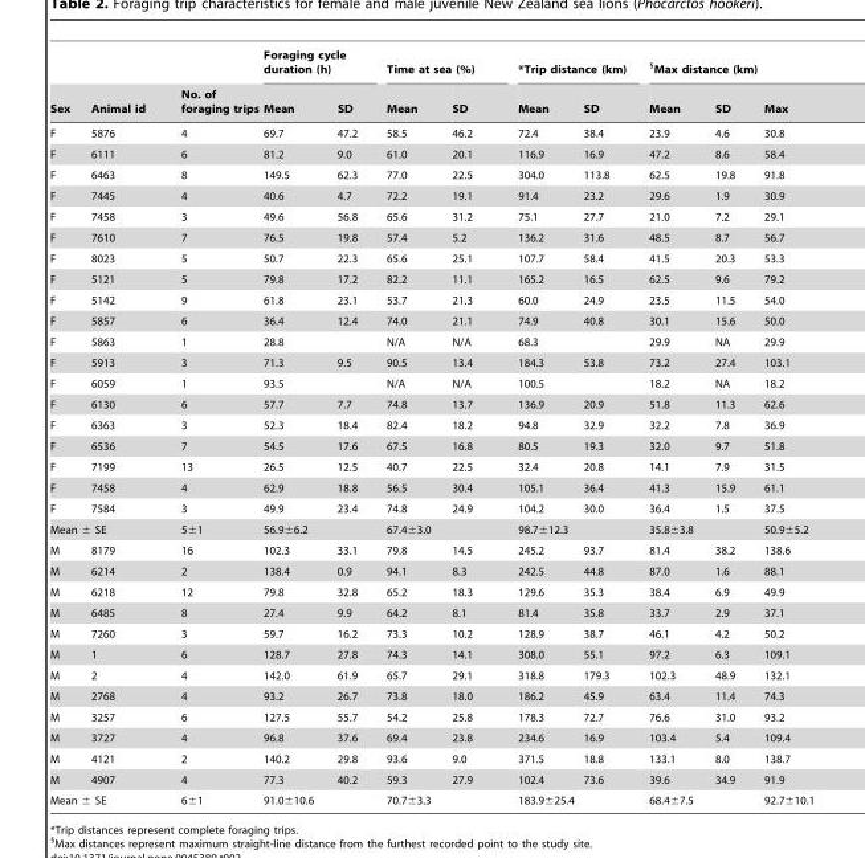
<table><thead><tr><td rowspan="2">Sex</td><td rowspan="2">Animal id</td><td rowspan="2">No. of foraging trips</td><td colspan="2">Foraging cycle duration (h)</td><td colspan="2">Time at sea (%)</td><td colspan="2">*Trip distance (km)</td><td colspan="3">§Max distance (km)</td></tr><tr><td>Mean</td><td>SD</td><td>Mean</td><td>SD</td><td>Mean</td><td>SD</td><td>Mean</td><td>SD</td><td>Max</td></tr></thead><tbody><tr><td>F</td><td>5876</td><td>4</td><td>69.7</td><td>47.2</td><td>58.5</td><td>46.2</td><td>72.4</td><td>38.4</td><td>23.9</td><td>4.6</td><td>30.8</td></tr><tr><td>F</td><td>6111</td><td>6</td><td>81.2</td><td>9.0</td><td>61.0</td><td>20.1</td><td>116.9</td><td>16.9</td><td>47.2</td><td>8.6</td><td>58.4</td></tr><tr><td>F</td><td>6463</td><td>8</td><td>149.5</td><td>62.3</td><td>77.0</td><td>22.5</td><td>304.0</td><td>113.8</td><td>62.5</td><td>19.8</td><td>91.8</td></tr><tr><td>F</td><td>7445</td><td>4</td><td>40.6</td><td>4.7</td><td>72.2</td><td>19.1</td><td>91.4</td><td>23.2</td><td>29.6</td><td>1.9</td><td>30.9</td></tr><tr><td>F</td><td>7458</td><td>3</td><td>49.6</td><td>56.8</td><td>65.6</td><td>31.2</td><td>75.1</td><td>27.7</td><td>21.0</td><td>7.2</td><td>29.1</td></tr><tr><td>F</td><td>7610</td><td>7</td><td>76.5</td><td>19.8</td><td>57.4</td><td>5.2</td><td>136.2</td><td>31.6</td><td>48.5</td><td>8.7</td><td>56.7</td></tr><tr><td>F</td><td>8023</td><td>5</td><td>50.7</td><td>22.3</td><td>65.6</td><td>25.1</td><td>107.7</td><td>58.4</td><td>41.5</td><td>20.3</td><td>53.3</td></tr><tr><td>F</td><td>5121</td><td>5</td><td>79.8</td><td>17.2</td><td>82.2</td><td>11.1</td><td>165.2</td><td>16.5</td><td>62.5</td><td>9.6</td><td>79.2</td></tr><tr><td>F</td><td>5142</td><td>9</td><td>61.8</td><td>23.1</td><td>53.7</td><td>21.3</td><td>60.0</td><td>24.9</td><td>23.5</td><td>11.5</td><td>54.0</td></tr><tr><td>F</td><td>5857</td><td>6</td><td>36.4</td><td>12.4</td><td>74.0</td><td>21.1</td><td>74.9</td><td>40.8</td><td>30.1</td><td>15.6</td><td>50.0</td></tr><tr><td>F</td><td>5863</td><td>1</td><td>28.8</td><td></td><td>N/A</td><td>N/A</td><td>68.3</td><td></td><td>29.9</td><td>NA</td><td>29.9</td></tr><tr><td>F</td><td>5913</td><td>3</td><td>71.3</td><td>9.5</td><td>90.5</td><td>13.4</td><td>184.3</td><td>53.8</td><td>73.2</td><td>27.4</td><td>103.1</td></tr><tr><td>F</td><td>6059</td><td>1</td><td>93.5</td><td></td><td>N/A</td><td>N/A</td><td>100.5</td><td></td><td>18.2</td><td>NA</td><td>18.2</td></tr><tr><td>F</td><td>6130</td><td>6</td><td>57.7</td><td>7.7</td><td>74.8</td><td>13.7</td><td>136.9</td><td>20.9</td><td>51.8</td><td>11.3</td><td>62.6</td></tr><tr><td>F</td><td>6363</td><td>3</td><td>52.3</td><td>18.4</td><td>82.4</td><td>18.2</td><td>94.8</td><td>32.9</td><td>32.2</td><td>7.8</td><td>36.9</td></tr><tr><td>F</td><td>6536</td><td>7</td><td>54.5</td><td>17.6</td><td>67.5</td><td>16.8</td><td>80.5</td><td>19.3</td><td>32.0</td><td>9.7</td><td>51.8</td></tr><tr><td>F</td><td>7199</td><td>13</td><td>26.5</td><td>12.5</td><td>40.7</td><td>22.5</td><td>32.4</td><td>20.8</td><td>14.1</td><td>7.9</td><td>31.5</td></tr><tr><td>F</td><td>7458</td><td>4</td><td>62.9</td><td>18.8</td><td>56.5</td><td>30.4</td><td>105.1</td><td>36.4</td><td>41.3</td><td>15.9</td><td>61.1</td></tr><tr><td>F</td><td>7584</td><td>3</td><td>49.9</td><td>23.4</td><td>74.8</td><td>24.9</td><td>104.2</td><td>30.0</td><td>36.4</td><td>1.5</td><td>37.5</td></tr><tr><td colspan="2">Mean ± SE</td><td>5±1</td><td colspan="2">56.9±6.2</td><td colspan="2">67.4±3.0</td><td colspan="2">98.7±12.3</td><td colspan="2">35.8±3.8</td><td>50.9±5.2</td></tr><tr><td>M</td><td>8179</td><td>16</td><td>102.3</td><td>33.1</td><td>79.8</td><td>14.5</td><td>245.2</td><td>93.7</td><td>81.4</td><td>38.2</td><td>138.6</td></tr><tr><td>M</td><td>6214</td><td>2</td><td>138.4</td><td>0.9</td><td>94.1</td><td>8.3</td><td>242.5</td><td>44.8</td><td>87.0</td><td>1.6</td><td>88.1</td></tr><tr><td>M</td><td>6218</td><td>12</td><td>79.8</td><td>32.8</td><td>65.2</td><td>18.3</td><td>129.6</td><td>35.3</td><td>38.4</td><td>6.9</td><td>49.9</td></tr><tr><td>M</td><td>6485</td><td>8</td><td>27.4</td><td>9.9</td><td>64.2</td><td>8.1</td><td>81.4</td><td>35.8</td><td>33.7</td><td>2.9</td><td>37.1</td></tr><tr><td>M</td><td>7260</td><td>3</td><td>59.7</td><td>16.2</td><td>73.3</td><td>10.2</td><td>128.9</td><td>38.7</td><td>46.1</td><td>4.2</td><td>50.2</td></tr><tr><td>M</td><td>1</td><td>6</td><td>128.7</td><td>27.8</td><td>74.3</td><td>14.1</td><td>308.0</td><td>55.1</td><td>97.2</td><td>6.3</td><td>109.1</td></tr><tr><td>M</td><td>2</td><td>4</td><td>142.0</td><td>61.9</td><td>65.7</td><td>29.1</td><td>318.8</td><td>179.3</td><td>102.3</td><td>48.9</td><td>132.1</td></tr><tr><td>M</td><td>2768</td><td>4</td><td>93.2</td><td>26.7</td><td>73.8</td><td>18.0</td><td>186.2</td><td>45.9</td><td>63.4</td><td>11.4</td><td>74.3</td></tr><tr><td>M</td><td>3257</td><td>6</td><td>127.5</td><td>55.7</td><td>54.2</td><td>25.8</td><td>178.3</td><td>72.7</td><td>76.6</td><td>31.0</td><td>93.2</td></tr><tr><td>M</td><td>3727</td><td>4</td><td>96.8</td><td>37.6</td><td>69.4</td><td>23.8</td><td>234.6</td><td>16.9</td><td>103.4</td><td>5.4</td><td>109.4</td></tr><tr><td>M</td><td>4121</td><td>2</td><td>140.2</td><td>29.8</td><td>93.6</td><td>9.0</td><td>371.5</td><td>18.8</td><td>133.1</td><td>8.0</td><td>138.7</td></tr><tr><td>M</td><td>4907</td><td>4</td><td>77.3</td><td>40.2</td><td>59.3</td><td>27.9</td><td>102.4</td><td>73.6</td><td>39.6</td><td>34.9</td><td>91.9</td></tr><tr><td colspan="2">Mean ± SE</td><td>6±1</td><td colspan="2">91.0±10.6</td><td colspan="2">70.7±3.3</td><td colspan="2">183.9±25.4</td><td colspan="2">68.4±7.5</td><td>92.7±10.1</td></tr></tbody></table>